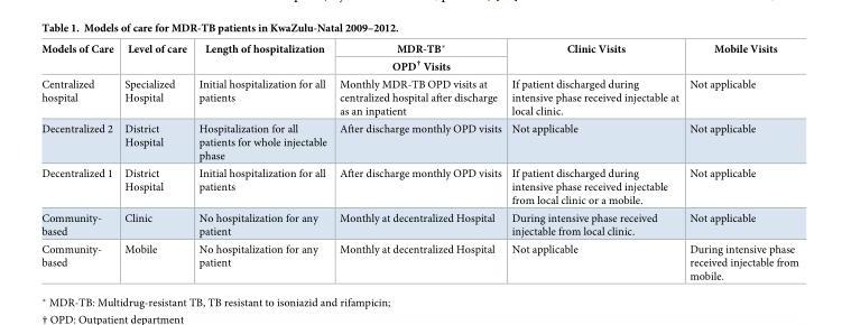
<table><thead><tr><td rowspan="2">Models of Care</td><td rowspan="2">Level of care</td><td rowspan="2">Length of hospitalization</td><td rowspan="2">MDR-TB* OPD<sup>†</sup> Visits</td><td rowspan="2">Clinic Visits</td><td rowspan="2">Mobile Visits</td></tr><tr></tr></thead><tbody><tr><td>Centralized hospital</td><td>Specialized Hospital</td><td>Initial hospitalization for all patients</td><td>Monthly MDR-TB OPD visits at centralized hospital after discharge as an inpatient</td><td>If patient discharged during intensive phase received injectable at local clinic.</td><td>Not applicable</td></tr><tr><td>Decentralized 2</td><td>District Hospital</td><td>Hospitalization for all patients for whole injectable phase</td><td>After discharge monthly OPD visits</td><td>Not applicable</td><td>Not applicable</td></tr><tr><td>Decentralized 1</td><td>District Hospital</td><td>Initial hospitalization for all patients</td><td>After discharge monthly OPD visits</td><td>If patient discharged during intensive phase received injectable from local clinic or a mobile.</td><td>Not applicable</td></tr><tr><td>Community- based</td><td>Clinic</td><td>No hospitalization for any patient</td><td>Monthly at decentralized Hospital</td><td>During intensive phase received injectable from local clinic.</td><td>Not applicable</td></tr><tr><td>Community- based</td><td>Mobile</td><td>No hospitalization for any patient</td><td>Monthly at decentralized Hospital</td><td>Not applicable</td><td>During intensive phase received injectable from mobile.</td></tr></tbody></table>